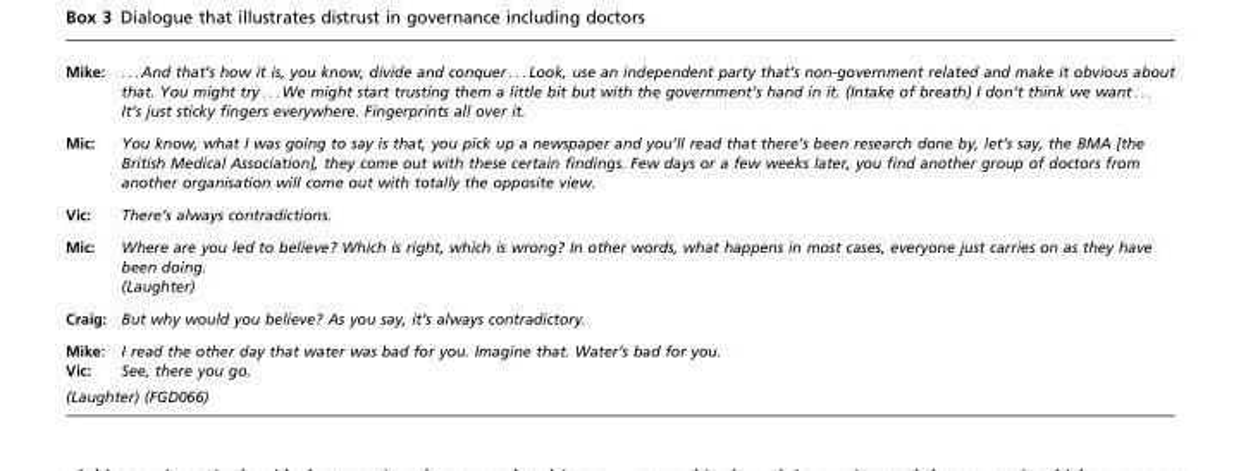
<table><tbody><tr><td>Mike:</td><td>. . . And that’s how it is, you know, divide and conquer . . . Look, use an independent party that’s non-government related and make it obvious about that. You might try . . . We might start trusting them a little bit but with the government’s hand in it. (Intake of breath) I don’t think we want . . . It’s just sticky fingers everywhere. Fingerprints all over it.</td></tr><tr><td>Mic:</td><td>You know, what I was going to say is that, you pick up a newspaper and you’ll read that there’s been research done by, let’s say, the BMA [the British Medical Association], they come out with these certain findings. Few days or a few weeks later, you find another group of doctors from another organisation will come out with totally the opposite view.</td></tr><tr><td>Vic:</td><td>There’s always contradictions.</td></tr><tr><td rowspan="2">Mic:</td><td>Where are you led to believe? Which is right, which is wrong? In other words, what happens in most cases, everyone just carries on as they have been doing.</td></tr><tr><td>(Laughter)</td></tr><tr><td>Craig:</td><td>But why would you believe? As you say, it’s always contradictory.</td></tr><tr><td>Mike:</td><td>I read the other day that water was bad for you. Imagine that. Water’s bad for you.</td></tr><tr><td>Vic:</td><td>See, there you go.</td></tr><tr><td colspan="2">(Laughter) (FGD066)</td></tr></tbody></table>